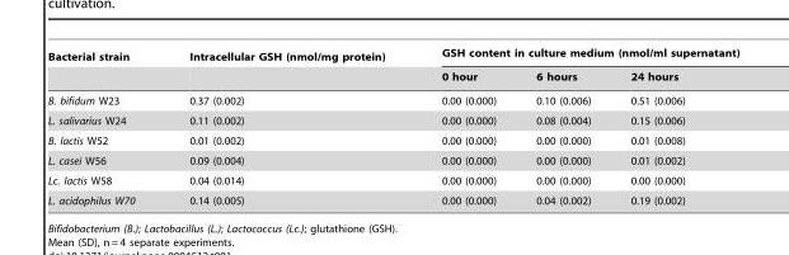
<table><thead><tr><td rowspan="2">Bacterial strain</td><td rowspan="2">Intracellular GSH (nmol/mg protein)</td><td colspan="3">GSH content in culture medium (nmol/ml supernatant)</td></tr><tr><td>0 hour</td><td>6 hours</td><td>24 hours</td></tr></thead><tbody><tr><td>B. bifidum W23</td><td>0.37 (0.002)</td><td>0.00 (0.000)</td><td>0.10 (0.006)</td><td>0.51 (0.006)</td></tr><tr><td>L. salivarius W24</td><td>0.11 (0.002)</td><td>0.00 (0.000)</td><td>0.08 (0.004)</td><td>0.15 (0.006)</td></tr><tr><td>B. lactis W52</td><td>0.01 (0.002)</td><td>0.00 (0.000)</td><td>0.00 (0.000)</td><td>0.01 (0.008)</td></tr><tr><td>L. casei W56</td><td>0.09 (0.004)</td><td>0.00 (0.000)</td><td>0.00 (0.000)</td><td>0.01 (0.002)</td></tr><tr><td>Lc. lactis W58</td><td>0.04 (0.014)</td><td>0.00 (0.000)</td><td>0.00 (0.000)</td><td>0.00 (0.000)</td></tr><tr><td>L. acidophilus W70</td><td>0.14 (0.005)</td><td>0.00 (0.000)</td><td>0.04 (0.002)</td><td>0.19 (0.002)</td></tr></tbody></table>